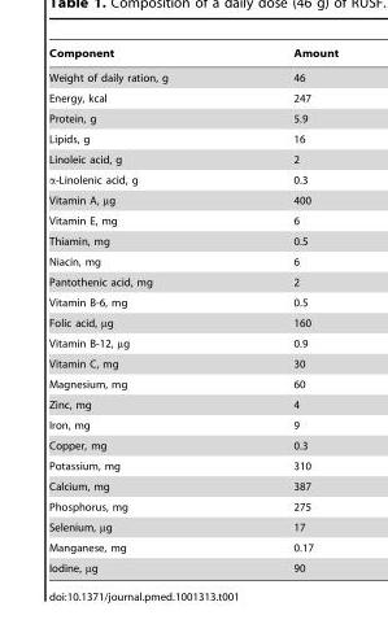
<table><thead><tr><td>Component</td><td>Amount</td></tr></thead><tbody><tr><td>Weight of daily ration, g</td><td>46</td></tr><tr><td>Energy, kcal</td><td>247</td></tr><tr><td>Protein, g</td><td>5.9</td></tr><tr><td>Lipids, g</td><td>16</td></tr><tr><td>Linoleic acid, g</td><td>2</td></tr><tr><td>α-Linolenic acid, g</td><td>0.3</td></tr><tr><td>Vitamin A, µg</td><td>400</td></tr><tr><td>Vitamin E, mg</td><td>6</td></tr><tr><td>Thiamin, mg</td><td>0.5</td></tr><tr><td>Niacin, mg</td><td>6</td></tr><tr><td>Pantothenic acid, mg</td><td>2</td></tr><tr><td>Vitamin B-6, mg</td><td>0.5</td></tr><tr><td>Folic acid, µg</td><td>160</td></tr><tr><td>Vitamin B-12, µg</td><td>0.9</td></tr><tr><td>Vitamin C, mg</td><td>30</td></tr><tr><td>Magnesium, mg</td><td>60</td></tr><tr><td>Zinc, mg</td><td>4</td></tr><tr><td>Iron, mg</td><td>9</td></tr><tr><td>Copper, mg</td><td>0.3</td></tr><tr><td>Potassium, mg</td><td>310</td></tr><tr><td>Calcium, mg</td><td>387</td></tr><tr><td>Phosphorus, mg</td><td>275</td></tr><tr><td>Selenium, µg</td><td>17</td></tr><tr><td>Manganese, mg</td><td>0.17</td></tr><tr><td>Iodine, µg</td><td>90</td></tr></tbody></table>